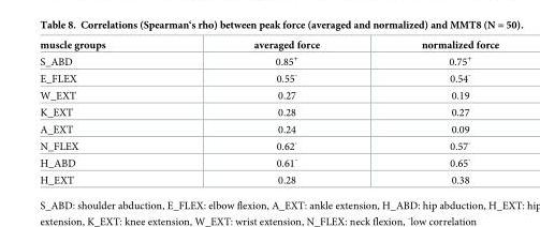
<table><thead><tr><td>muscle groups</td><td>averaged force</td><td>normalized force</td></tr></thead><tbody><tr><td>S_ABD</td><td>0.85<sup>+</sup></td><td>0.75<sup>+</sup></td></tr><tr><td>E_FLEX</td><td>0.55<sup>-</sup></td><td>0.54<sup>-</sup></td></tr><tr><td>W_EXT</td><td>0.27</td><td>0.19</td></tr><tr><td>K_EXT</td><td>0.28</td><td>0.27</td></tr><tr><td>A_EXT</td><td>0.24</td><td>0.09</td></tr><tr><td>N_FLEX</td><td>0.62<sup>-</sup></td><td>0.57<sup>-</sup></td></tr><tr><td>H_ABD</td><td>0.61<sup>-</sup></td><td>0.65<sup>-</sup></td></tr><tr><td>H_EXT</td><td>0.28</td><td>0.38</td></tr></tbody></table>